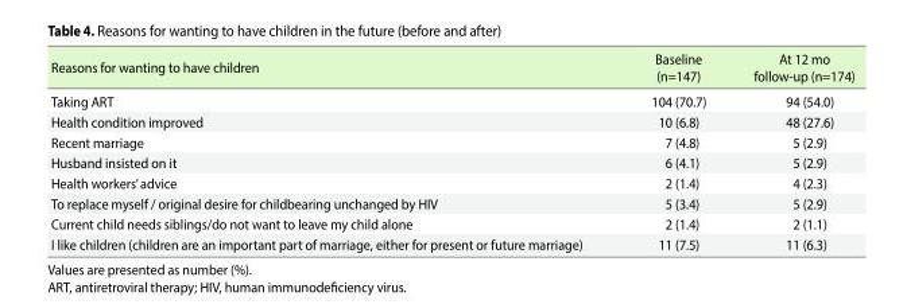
<table><thead><tr><td>Reasons for wanting to have children</td><td>Baseline (n=147)</td><td>At 12 mo follow-up (n=174)</td></tr></thead><tbody><tr><td>Taking ART</td><td>104 (70.7)</td><td>94 (54.0)</td></tr><tr><td>Health condition improved</td><td>10 (6.8)</td><td>48 (27.6)</td></tr><tr><td>Recent marriage</td><td>7 (4.8)</td><td>5 (2.9)</td></tr><tr><td>Husband insisted on it</td><td>6 (4.1)</td><td>5 (2.9)</td></tr><tr><td>Health workers’ advice</td><td>2 (1.4)</td><td>4 (2.3)</td></tr><tr><td>To replace myself / original desire for childbearing unchanged by HIV</td><td>5 (3.4)</td><td>5 (2.9)</td></tr><tr><td>Current child needs siblings/do not want to leave my child alone</td><td>2 (1.4)</td><td>2 (1.1)</td></tr><tr><td>I like children (children are an important part of marriage, either for present or future marriage)</td><td>11 (7.5)</td><td>11 (6.3)</td></tr></tbody></table>